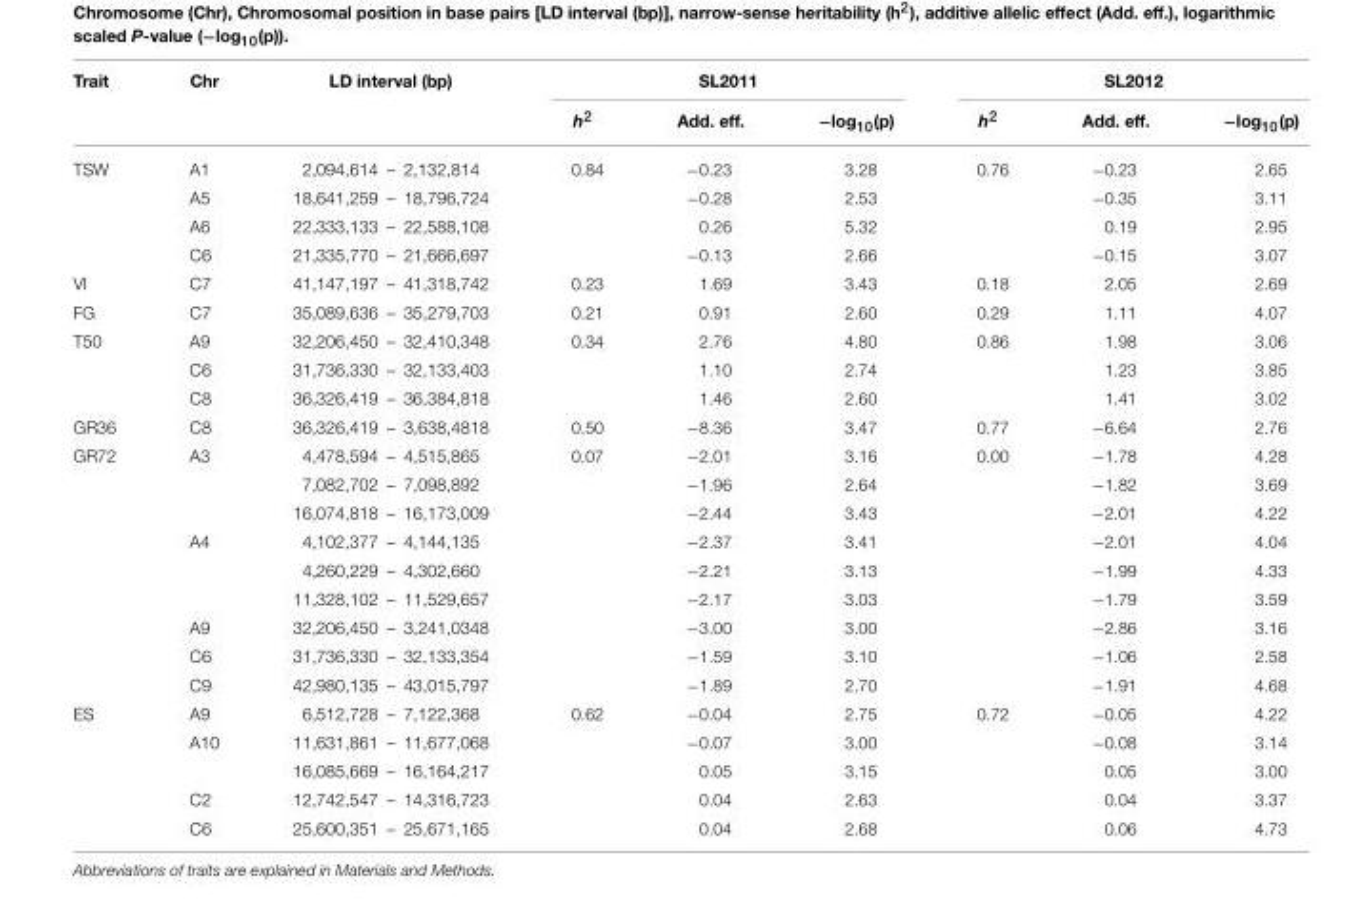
<table><thead><tr><td rowspan="2">Trait</td><td rowspan="2">Chr</td><td rowspan="2">LD interval (bp)</td><td colspan="3">SL2011</td><td colspan="3">SL2012</td></tr><tr><td>h<sup>2</sup></td><td>Add. eff.</td><td>−log<sub>10</sub>(p)</td><td>h<sup>2</sup></td><td>Add. eff.</td><td>−log<sub>10</sub>(p)</td></tr></thead><tbody><tr><td rowspan="4">TSW</td><td>A1</td><td>2,094,614 – 2,132,814</td><td>0.84</td><td>−0.23</td><td>3.28</td><td>0.76</td><td>−0.23</td><td>2.65</td></tr><tr><td>A5</td><td>18,641,259 – 18,796,724</td><td></td><td>−0.28</td><td>2.53</td><td></td><td>−0.35</td><td>3.11</td></tr><tr><td>A6</td><td>22,333,133 – 22,588,108</td><td></td><td>0.26</td><td>5.32</td><td></td><td>0.19</td><td>2.95</td></tr><tr><td>C6</td><td>21,335,770 – 21,666,697</td><td></td><td>−0.13</td><td>2.66</td><td></td><td>−0.15</td><td>3.07</td></tr><tr><td>VI</td><td>C7</td><td>41,147,197 – 41,318,742</td><td>0.23</td><td>1.69</td><td>3.43</td><td>0.18</td><td>2.05</td><td>2.69</td></tr><tr><td>FG</td><td>C7</td><td>35,089,636 – 35,279,703</td><td>0.21</td><td>0.91</td><td>2.60</td><td>0.29</td><td>1.11</td><td>4.07</td></tr><tr><td rowspan="3">T50</td><td>A9</td><td>32,206,450 – 32,410,348</td><td>0.34</td><td>2.76</td><td>4.80</td><td>0.86</td><td>1.98</td><td>3.06</td></tr><tr><td>C6</td><td>31,736,330 – 32,133,403</td><td></td><td>1.10</td><td>2.74</td><td></td><td>1.23</td><td>3.85</td></tr><tr><td>C8</td><td>36,326,419 – 36,384,818</td><td></td><td>1.46</td><td>2.60</td><td></td><td>1.41</td><td>3.02</td></tr><tr><td>GR36</td><td>C8</td><td>36,326,419 – 3,638,4818</td><td>0.50</td><td>−8.36</td><td>3.47</td><td>0.77</td><td>−6.64</td><td>2.76</td></tr><tr><td rowspan="9">GR72</td><td>A3</td><td>4,478,594 – 4,515,865</td><td>0.07</td><td>−2.01</td><td>3.16</td><td>0.00</td><td>−1.78</td><td>4.28</td></tr><tr><td></td><td>7,082,702 – 7,098,892</td><td></td><td>−1.96</td><td>2.64</td><td></td><td>−1.82</td><td>3.69</td></tr><tr><td></td><td>16,074,818 – 16,173,009</td><td></td><td>−2.44</td><td>3.43</td><td></td><td>−2.01</td><td>4.22</td></tr><tr><td>A4</td><td>4,102,377 – 4,144,135</td><td></td><td>−2.37</td><td>3.41</td><td></td><td>−2.01</td><td>4.04</td></tr><tr><td></td><td>4,260,229 – 4,302,660</td><td></td><td>−2.21</td><td>3.13</td><td></td><td>−1.99</td><td>4.33</td></tr><tr><td></td><td>11,328,102 – 11,529,657</td><td></td><td>−2.17</td><td>3.03</td><td></td><td>−1.79</td><td>3.59</td></tr><tr><td>A9</td><td>32,206,450 – 3,241,0348</td><td></td><td>−3.00</td><td>3.00</td><td></td><td>−2.86</td><td>3.16</td></tr><tr><td>C6</td><td>31,736,330 – 32,133,354</td><td></td><td>−1.59</td><td>3.10</td><td></td><td>−1.06</td><td>2.58</td></tr><tr><td>C9</td><td>42,980,135 – 43,015,797</td><td></td><td>−1.89</td><td>2.70</td><td></td><td>−1.91</td><td>4.68</td></tr><tr><td rowspan="5">ES</td><td>A9</td><td>6,512,728 – 7,122,368</td><td>0.62</td><td>−0.04</td><td>2.75</td><td>0.72</td><td>−0.05</td><td>4.22</td></tr><tr><td>A10</td><td>11,631,861 – 11,677,068</td><td></td><td>−0.07</td><td>3.00</td><td></td><td>−0.08</td><td>3.14</td></tr><tr><td></td><td>16,085,669 – 16,164,217</td><td></td><td>0.05</td><td>3.15</td><td></td><td>0.05</td><td>3.00</td></tr><tr><td>C2</td><td>12,742,547 – 14,316,723</td><td></td><td>0.04</td><td>2.63</td><td></td><td>0.04</td><td>3.37</td></tr><tr><td>C6</td><td>25,600,351 – 25,671,165</td><td></td><td>0.04</td><td>2.68</td><td></td><td>0.06</td><td>4.73</td></tr></tbody></table>